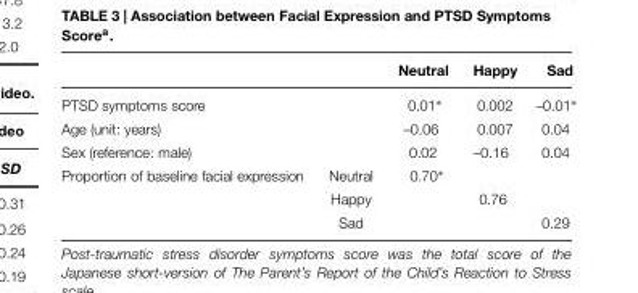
<table><thead><tr><td></td><td></td><td>Neutral</td><td>Happy</td><td>Sad</td></tr></thead><tbody><tr><td>PTSD symptoms score</td><td></td><td>0.01∗</td><td>0.002</td><td>–0.01∗</td></tr><tr><td>Age (unit: years)</td><td></td><td>–0.06</td><td>0.007</td><td>0.04</td></tr><tr><td>Sex (reference: male)</td><td></td><td>0.02</td><td>–0.16</td><td>0.04</td></tr><tr><td rowspan="3">Proportion of baseline facial expression</td><td>Neutral</td><td>0.70∗</td><td></td><td></td></tr><tr><td>Happy</td><td></td><td>0.76</td><td></td></tr><tr><td>Sad</td><td></td><td></td><td>0.29</td></tr></tbody></table>